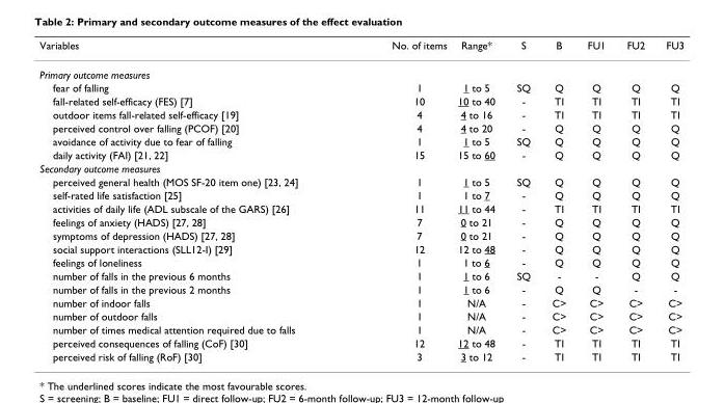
<table><thead><tr><td>Variables</td><td>No. of items</td><td>Range*</td><td>S</td><td>B</td><td>FU1</td><td>FU2</td><td>FU3</td></tr></thead><tbody><tr><td colspan="8">Primary outcome measures</td></tr><tr><td>fear of falling</td><td>1</td><td>1 to 5</td><td>SQ</td><td>Q</td><td>Q</td><td>Q</td><td>Q</td></tr><tr><td>fall-related self-efficacy (FES) [7]</td><td>10</td><td>10 to 40</td><td>-</td><td>TI</td><td>TI</td><td>TI</td><td>TI</td></tr><tr><td>outdoor items fall-related self-efficacy [19]</td><td>4</td><td>4 to 16</td><td>-</td><td>TI</td><td>TI</td><td>TI</td><td>TI</td></tr><tr><td>perceived control over falling (PCOF) [20]</td><td>4</td><td>4 to 20</td><td>-</td><td>Q</td><td>Q</td><td>Q</td><td>Q</td></tr><tr><td>avoidance of activity due to fear of falling</td><td>1</td><td>1 to 5</td><td>SQ</td><td>Q</td><td>Q</td><td>Q</td><td>Q</td></tr><tr><td>daily activity (FAI) [21, 22]</td><td>15</td><td>15 to 60</td><td>-</td><td>Q</td><td>Q</td><td>Q</td><td>Q</td></tr><tr><td colspan="8">Secondary outcome measures</td></tr><tr><td>perceived general health (MOS SF-20 item one) [23, 24]</td><td>1</td><td>1 to 5</td><td>SQ</td><td>Q</td><td>Q</td><td>Q</td><td>Q</td></tr><tr><td>self-rated life satisfaction [25]</td><td>1</td><td>1 to 7</td><td>-</td><td>Q</td><td>Q</td><td>Q</td><td>Q</td></tr><tr><td>activities of daily life (ADL subscale of the GARS) [26]</td><td>11</td><td>11 to 44</td><td>-</td><td>TI</td><td>TI</td><td>TI</td><td>TI</td></tr><tr><td>feelings of anxiety (HADS) [27, 28]</td><td>7</td><td>0 to 21</td><td>-</td><td>Q</td><td>Q</td><td>Q</td><td>Q</td></tr><tr><td>symptoms of depression (HADS) [27, 28]</td><td>7</td><td>0 to 21</td><td>-</td><td>Q</td><td>Q</td><td>Q</td><td>Q</td></tr><tr><td>social support interactions (SLL12-I) [29]</td><td>12</td><td>12 to 48</td><td>-</td><td>Q</td><td>Q</td><td>Q</td><td>Q</td></tr><tr><td>feelings of loneliness</td><td>1</td><td>1 to 6</td><td>-</td><td>Q</td><td>Q</td><td>Q</td><td>Q</td></tr><tr><td>number of falls in the previous 6 months</td><td>1</td><td>1 to 6</td><td>SQ</td><td>-</td><td>-</td><td>Q</td><td>Q</td></tr><tr><td>number of falls in the previous 2 months</td><td>1</td><td>1 to 6</td><td>-</td><td>Q</td><td>Q</td><td>-</td><td>-</td></tr><tr><td>number of indoor falls</td><td>1</td><td>N/A</td><td>-</td><td>C&gt;</td><td>C&gt;</td><td>C&gt;</td><td>C&gt;</td></tr><tr><td>number of outdoor falls</td><td>1</td><td>N/A</td><td>-</td><td>C&gt;</td><td>C&gt;</td><td>C&gt;</td><td>C&gt;</td></tr><tr><td>number of times medical attention required due to falls</td><td>1</td><td>N/A</td><td>-</td><td>C&gt;</td><td>C&gt;</td><td>C&gt;</td><td>C&gt;</td></tr><tr><td>perceived consequences of falling (CoF) [30]</td><td>12</td><td>12 to 48</td><td>-</td><td>TI</td><td>TI</td><td>TI</td><td>TI</td></tr><tr><td>perceived risk of falling (RoF) [30]</td><td>3</td><td>3 to 12</td><td>-</td><td>TI</td><td>TI</td><td>TI</td><td>TI</td></tr></tbody></table>